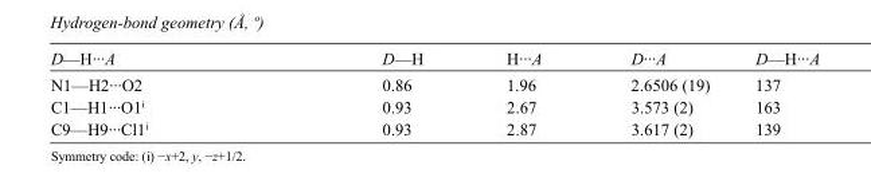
<table><tbody><tr><td>D—H···A</td><td>D—H</td><td>H···A</td><td>D···A</td><td>D—H···A</td></tr><tr><td>N1—H2···O2</td><td>0.86</td><td>1.96</td><td>2.6506 (19)</td><td>137</td></tr><tr><td>C1—H1···O1<sup>i</sup></td><td>0.93</td><td>2.67</td><td>3.573 (2)</td><td>163</td></tr><tr><td>C9—H9···Cl1<sup>i</sup></td><td>0.93</td><td>2.87</td><td>3.617 (2)</td><td>139</td></tr></tbody></table>